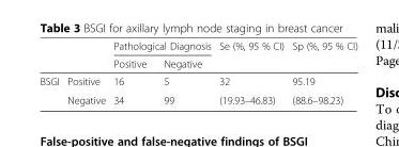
<table><thead><tr><td rowspan="2"></td><td rowspan="2"></td><td colspan="2">Pathological Diagnosis</td><td rowspan="2">Se (%, 95 % CI)</td><td rowspan="2">Sp (%, 95 % CI)</td></tr><tr><td>Positive</td><td>Negative</td></tr></thead><tbody><tr><td rowspan="2">BSGI</td><td>Positive</td><td>16</td><td>5</td><td>32</td><td>95.19</td></tr><tr><td>Negative</td><td>34</td><td>99</td><td>(19.93–46.83)</td><td>(88.6–98.23)</td></tr></tbody></table>